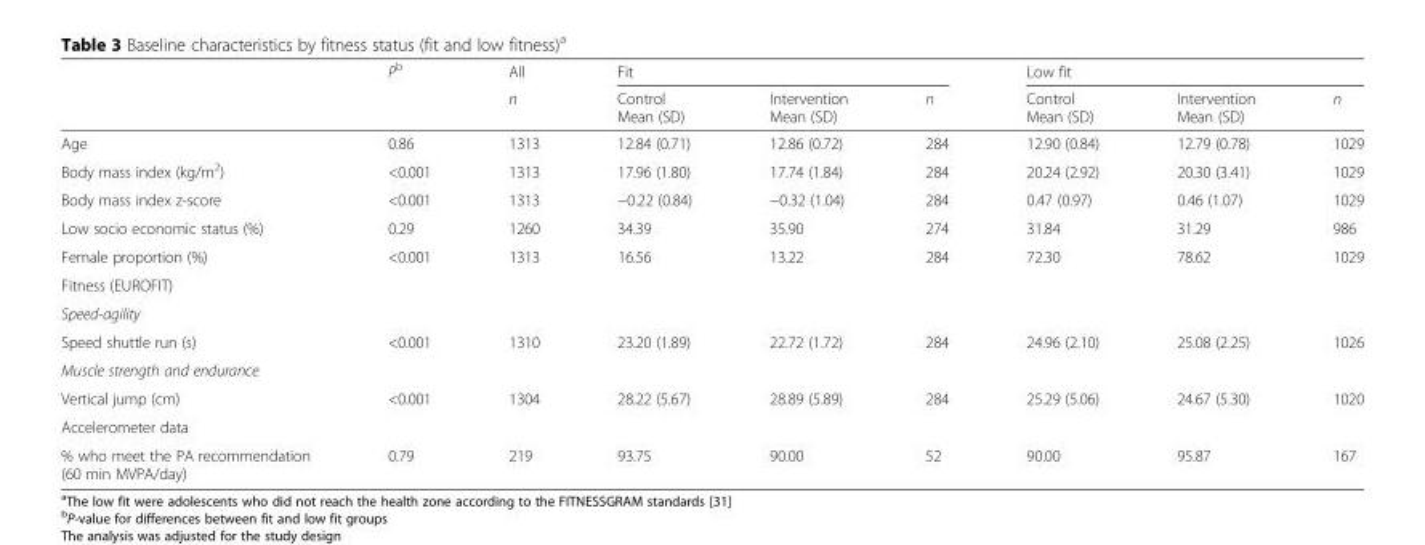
<table><thead><tr><td rowspan="2"></td><td rowspan="2">P<sup>b</sup></td><td rowspan="2">All n</td><td colspan="3">Fit</td><td colspan="3">Low fit</td></tr><tr><td>Control Mean (SD)</td><td>Intervention Mean (SD)</td><td>n</td><td>Control Mean (SD)</td><td>Intervention Mean (SD)</td><td>n</td></tr></thead><tbody><tr><td>Age</td><td>0.86</td><td>1313</td><td>12.84 (0.71)</td><td>12.86 (0.72)</td><td>284</td><td>12.90 (0.84)</td><td>12.79 (0.78)</td><td>1029</td></tr><tr><td>Body mass index (kg/m<sup>2</sup>)</td><td>&lt;0.001</td><td>1313</td><td>17.96 (1.80)</td><td>17.74 (1.84)</td><td>284</td><td>20.24 (2.92)</td><td>20.30 (3.41)</td><td>1029</td></tr><tr><td>Body mass index z-score</td><td>&lt;0.001</td><td>1313</td><td>−0.22 (0.84)</td><td>−0.32 (1.04)</td><td>284</td><td>0.47 (0.97)</td><td>0.46 (1.07)</td><td>1029</td></tr><tr><td>Low socio economic status (%)</td><td>0.29</td><td>1260</td><td>34.39</td><td>35.90</td><td>274</td><td>31.84</td><td>31.29</td><td>986</td></tr><tr><td>Female proportion (%)</td><td>&lt;0.001</td><td>1313</td><td>16.56</td><td>13.22</td><td>284</td><td>72.30</td><td>78.62</td><td>1029</td></tr><tr><td colspan="9">Fitness (EUROFIT)</td></tr><tr><td colspan="9">Speed-agility</td></tr><tr><td>Speed shuttle run (s)</td><td>&lt;0.001</td><td>1310</td><td>23.20 (1.89)</td><td>22.72 (1.72)</td><td>284</td><td>24.96 (2.10)</td><td>25.08 (2.25)</td><td>1026</td></tr><tr><td colspan="9">Muscle strength and endurance</td></tr><tr><td>Vertical jump (cm)</td><td>&lt;0.001</td><td>1304</td><td>28.22 (5.67)</td><td>28.89 (5.89)</td><td>284</td><td>25.29 (5.06)</td><td>24.67 (5.30)</td><td>1020</td></tr><tr><td colspan="9">Accelerometer data</td></tr><tr><td>% who meet the PA recommendation (60 min MVPA/day)</td><td>0.79</td><td>219</td><td>93.75</td><td>90.00</td><td>52</td><td>90.00</td><td>95.87</td><td>167</td></tr></tbody></table>